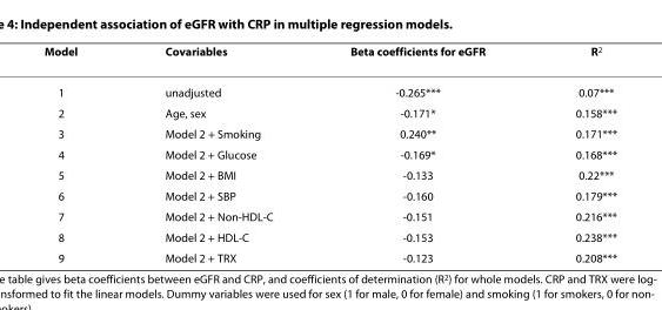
<table><thead><tr><td>Model</td><td>Covariables</td><td>Beta coefficients for eGFR</td><td>R<sup>2</sup></td></tr></thead><tbody><tr><td>1</td><td>unadjusted</td><td>-0.265***</td><td>0.07***</td></tr><tr><td>2</td><td>Age, sex</td><td>-0.171*</td><td>0.158***</td></tr><tr><td>3</td><td>Model 2 + Smoking</td><td>0.240**</td><td>0.171***</td></tr><tr><td>4</td><td>Model 2 + Glucose</td><td>-0.169*</td><td>0.168***</td></tr><tr><td>5</td><td>Model 2 + BMI</td><td>-0.133</td><td>0.22***</td></tr><tr><td>6</td><td>Model 2 + SBP</td><td>-0.160</td><td>0.179***</td></tr><tr><td>7</td><td>Model 2 + Non-HDL-C</td><td>-0.151</td><td>0.216***</td></tr><tr><td>8</td><td>Model 2 + HDL-C</td><td>-0.153</td><td>0.238***</td></tr><tr><td>9</td><td>Model 2 + TRX</td><td>-0.123</td><td>0.208***</td></tr></tbody></table>